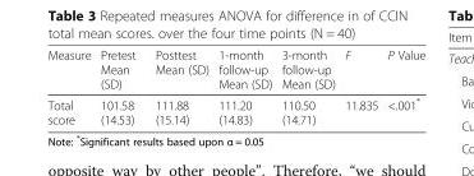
<table><thead><tr><td>Measure</td><td>Pretest Mean (SD)</td><td>Posttest Mean (SD)</td><td>1-month follow-up Mean (SD)</td><td>3-month follow-up Mean (SD)</td><td>F</td><td>P Value</td></tr></thead><tbody><tr><td>Total score</td><td>101.58 (14.53)</td><td>111.88 (15.14)</td><td>111.20 (14.83)</td><td>110.50 (14.71)</td><td>11.835</td><td>&lt;.001*</td></tr></tbody></table>